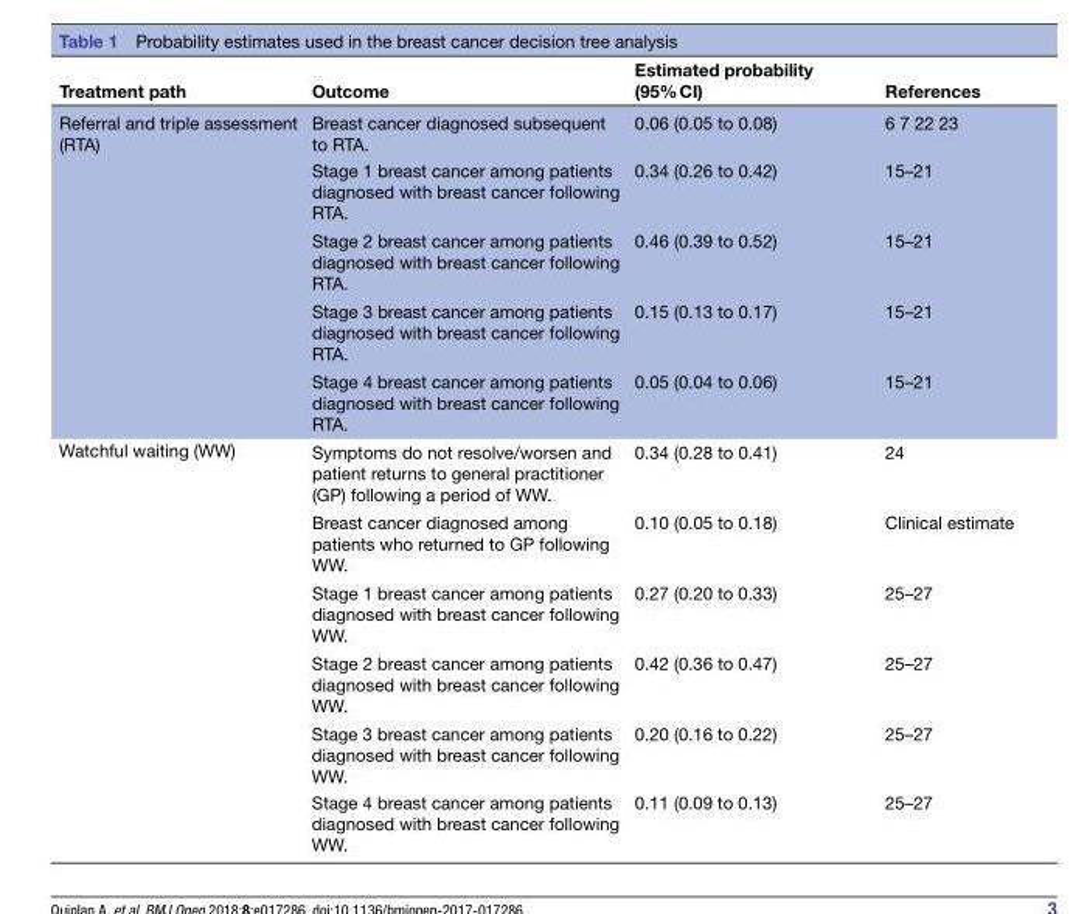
<table><thead><tr><td>Treatment path</td><td>Outcome</td><td>Estimated probability (95% CI)</td><td>References</td></tr></thead><tbody><tr><td rowspan="5">Referral and triple assessment (RTA)</td><td>Breast cancer diagnosed subsequent to RTA.</td><td>0.06 (0.05 to 0.08)</td><td>6 7 22 23</td></tr><tr><td>Stage 1 breast cancer among patients diagnosed with breast cancer following RTA.</td><td>0.34 (0.26 to 0.42)</td><td>15–21</td></tr><tr><td>Stage 2 breast cancer among patients diagnosed with breast cancer following RTA.</td><td>0.46 (0.39 to 0.52)</td><td>15–21</td></tr><tr><td>Stage 3 breast cancer among patients diagnosed with breast cancer following RTA.</td><td>0.15 (0.13 to 0.17)</td><td>15–21</td></tr><tr><td>Stage 4 breast cancer among patients diagnosed with breast cancer following RTA.</td><td>0.05 (0.04 to 0.06)</td><td>15–21</td></tr><tr><td rowspan="6">Watchful waiting (WW)</td><td>Symptoms do not resolve/worsen and patient returns to general practitioner (GP) following a period of WW.</td><td>0.34 (0.28 to 0.41)</td><td>24</td></tr><tr><td>Breast cancer diagnosed among patients who returned to GP following WW.</td><td>0.10 (0.05 to 0.18)</td><td>Clinical estimate</td></tr><tr><td>Stage 1 breast cancer among patients diagnosed with breast cancer following WW.</td><td>0.27 (0.20 to 0.33)</td><td>25–27</td></tr><tr><td>Stage 2 breast cancer among patients diagnosed with breast cancer following WW.</td><td>0.42 (0.36 to 0.47)</td><td>25–27</td></tr><tr><td>Stage 3 breast cancer among patients diagnosed with breast cancer following WW.</td><td>0.20 (0.16 to 0.22)</td><td>25–27</td></tr><tr><td>Stage 4 breast cancer among patients diagnosed with breast cancer following WW.</td><td>0.11 (0.09 to 0.13)</td><td>25–27</td></tr></tbody></table>